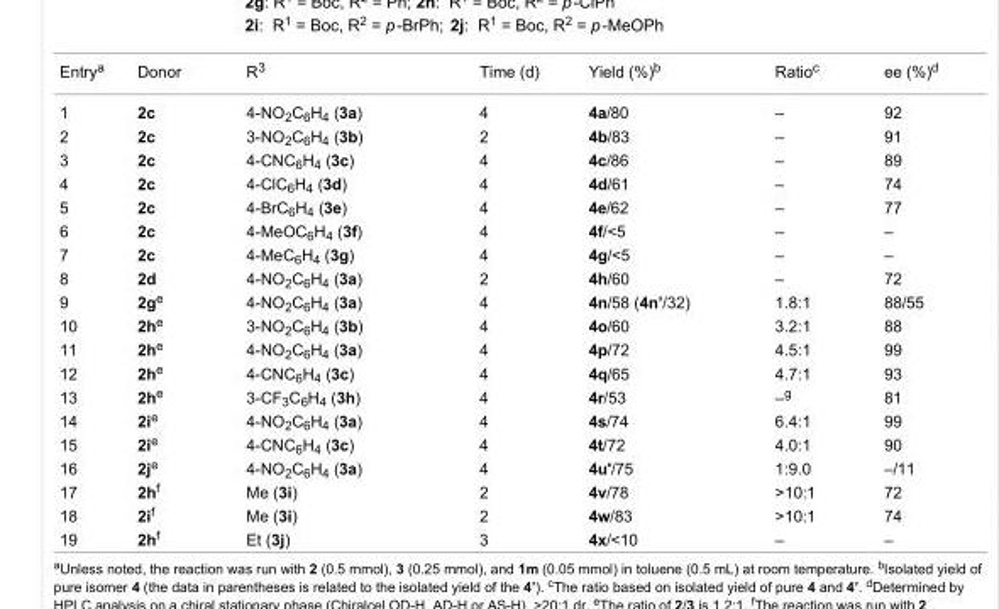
<table><tbody><tr><td>Entry<sup>a</sup></td><td>Donor</td><td>R<sup>3</sup></td><td>Time (d)</td><td>Yield (%)<sup>b</sup></td><td>Ratio<sup>c</sup></td><td>ee (%)<sup>d</sup></td></tr><tr><td>1</td><td>2c</td><td>4-NO<sub>2</sub>C<sub>6</sub>H<sub>4</sub> (3a)</td><td>4</td><td>4a/80</td><td>–</td><td>92</td></tr><tr><td>2</td><td>2c</td><td>3-NO<sub>2</sub>C<sub>6</sub>H<sub>4</sub> (3b)</td><td>2</td><td>4b/83</td><td>–</td><td>91</td></tr><tr><td>3</td><td>2c</td><td>4-CNC<sub>6</sub>H<sub>4</sub> (3c)</td><td>4</td><td>4c/86</td><td>–</td><td>89</td></tr><tr><td>4</td><td>2c</td><td>4-ClC<sub>6</sub>H<sub>4</sub> (3d)</td><td>4</td><td>4d/61</td><td>–</td><td>74</td></tr><tr><td>5</td><td>2c</td><td>4-BrC<sub>6</sub>H<sub>4</sub> (3e)</td><td>4</td><td>4e/62</td><td>–</td><td>77</td></tr><tr><td>6</td><td>2c</td><td>4-MeOC<sub>6</sub>H<sub>4</sub> (3f)</td><td>4</td><td>4f/&lt;5</td><td>–</td><td>–</td></tr><tr><td>7</td><td>2c</td><td>4-MeC<sub>6</sub>H<sub>4</sub> (3g)</td><td>4</td><td>4g/&lt;5</td><td>–</td><td>–</td></tr><tr><td>8</td><td>2d</td><td>4-NO<sub>2</sub>C<sub>6</sub>H<sub>4</sub> (3a)</td><td>2</td><td>4h/60</td><td>–</td><td>72</td></tr><tr><td>9</td><td>2g<sup>e</sup></td><td>4-NO<sub>2</sub>C<sub>6</sub>H<sub>4</sub> (3a)</td><td>4</td><td>4n/58 (4n’/32)</td><td>1.8:1</td><td>88/55</td></tr><tr><td>10</td><td>2h<sup>e</sup></td><td>3-NO<sub>2</sub>C<sub>6</sub>H<sub>4</sub> (3b)</td><td>4</td><td>4o/60</td><td>3.2:1</td><td>88</td></tr><tr><td>11</td><td>2h<sup>e</sup></td><td>4-NO<sub>2</sub>C<sub>6</sub>H<sub>4</sub> (3a)</td><td>4</td><td>4p/72</td><td>4.5:1</td><td>99</td></tr><tr><td>12</td><td>2h<sup>e</sup></td><td>4-CNC<sub>6</sub>H<sub>4</sub> (3c)</td><td>4</td><td>4q/65</td><td>4.7:1</td><td>93</td></tr><tr><td>13</td><td>2h<sup>e</sup></td><td>3-CF<sub>3</sub>C<sub>6</sub>H<sub>4</sub> (3h)</td><td>4</td><td>4r/53</td><td>–<sup>g</sup></td><td>81</td></tr><tr><td>14</td><td>2i<sup>e</sup></td><td>4-NO<sub>2</sub>C<sub>6</sub>H<sub>4</sub> (3a)</td><td>4</td><td>4s/74</td><td>6.4:1</td><td>99</td></tr><tr><td>15</td><td>2i<sup>e</sup></td><td>4-CNC<sub>6</sub>H<sub>4</sub> (3c)</td><td>4</td><td>4t/72</td><td>4.0:1</td><td>90</td></tr><tr><td>16</td><td>2j<sup>e</sup></td><td>4-NO<sub>2</sub>C<sub>6</sub>H<sub>4</sub> (3a)</td><td>4</td><td>4u&#x27;/75</td><td>1:9.0</td><td>–/11</td></tr><tr><td>17</td><td>2h<sup>f</sup></td><td>Me (3i)</td><td>2</td><td>4v/78</td><td>&gt;10:1</td><td>72</td></tr><tr><td>18</td><td>2i<sup>f</sup></td><td>Me (3i)</td><td>2</td><td>4w/83</td><td>&gt;10:1</td><td>74</td></tr><tr><td>19</td><td>2h<sup>f</sup></td><td>Et (3j)</td><td>3</td><td>4x/&lt;10</td><td>–</td><td>–</td></tr></tbody></table>